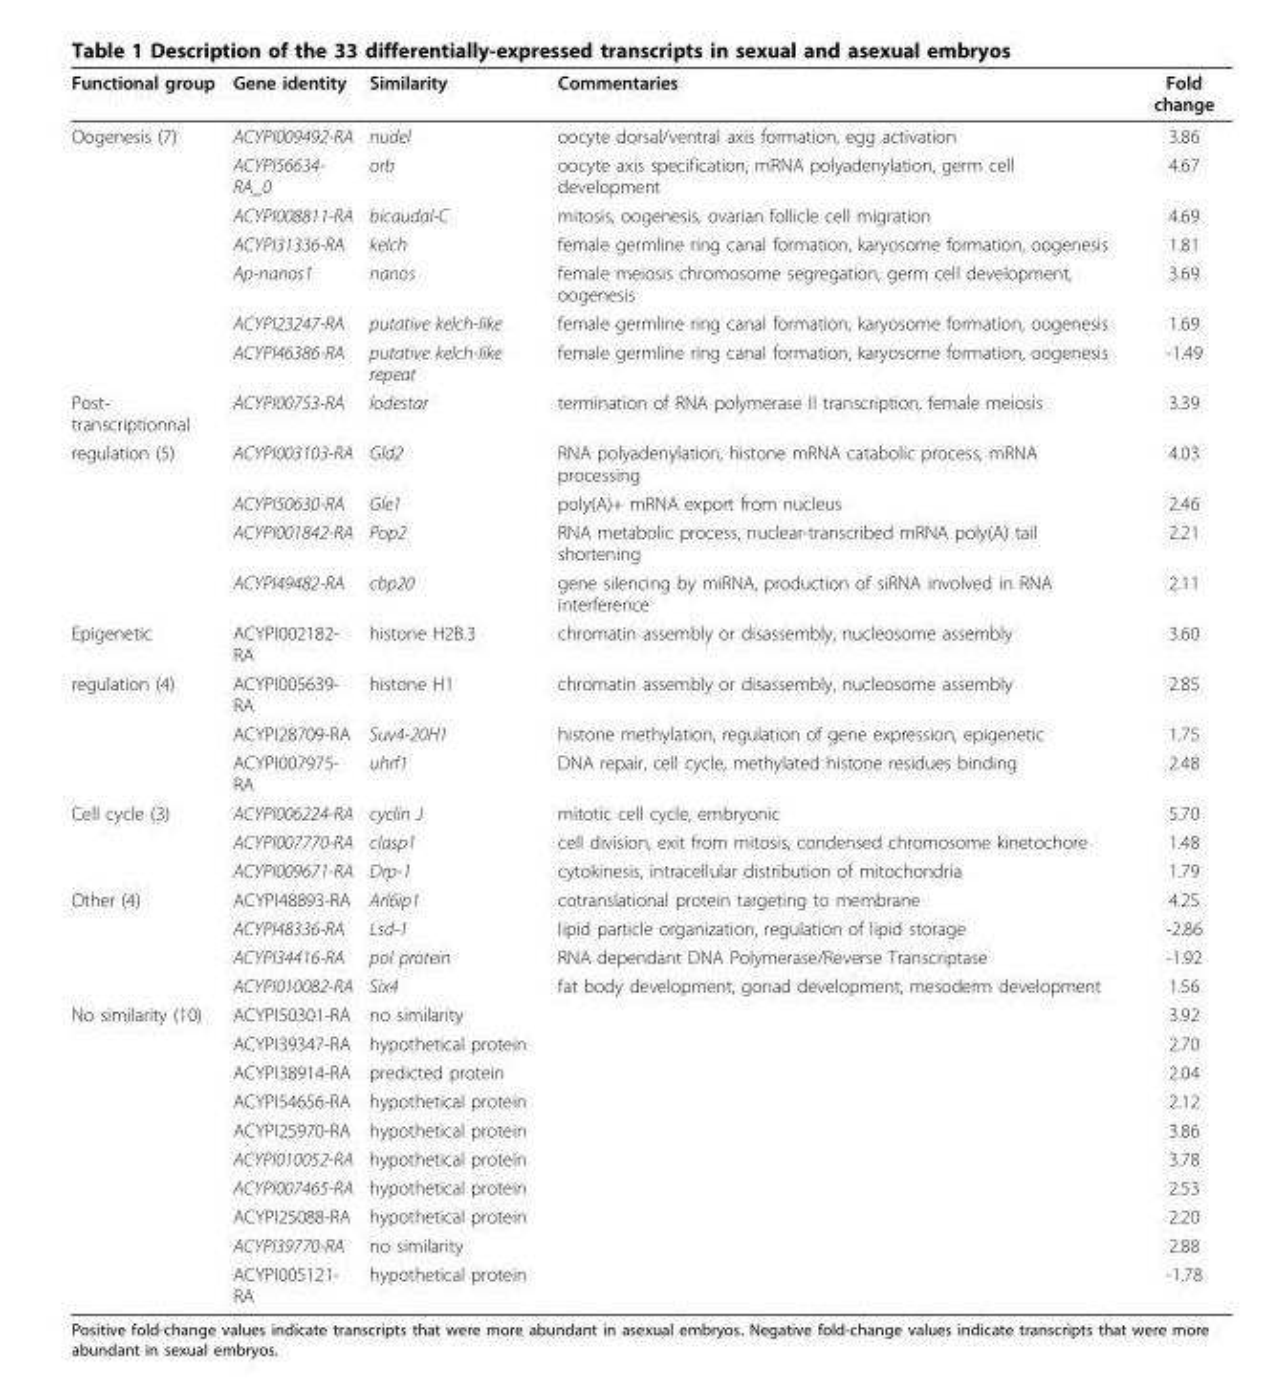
<table><thead><tr><td>Functional group</td><td>Gene identity</td><td>Similarity</td><td>Commentaries</td><td>Fold change</td></tr></thead><tbody><tr><td rowspan="7">Oogenesis (7)</td><td>ACYPI009492-RA</td><td>nudel</td><td>oocyte dorsal/ventral axis formation, egg activation</td><td>3.86</td></tr><tr><td>ACYPI56634- RA_0</td><td>orb</td><td>oocyte axis specification, mRNA polyadenylation, germ cell development</td><td>4.67</td></tr><tr><td>ACYPI008811-RA</td><td>bicaudal-C</td><td>mitosis, oogenesis, ovarian follicle cell migration</td><td>4.69</td></tr><tr><td>ACYPI31336-RA</td><td>kelch</td><td>female germline ring canal formation, karyosome formation, oogenesis</td><td>1.81</td></tr><tr><td>Ap-nanos1</td><td>nanos</td><td>female meiosis chromosome segregation, germ cell development, oogenesis</td><td>3.69</td></tr><tr><td>ACYPI23247-RA</td><td>putative kelch-like</td><td>female germline ring canal formation, karyosome formation, oogenesis</td><td>1.69</td></tr><tr><td>ACYPI46386-RA</td><td>putative kelch-like repeat</td><td>female germline ring canal formation, karyosome formation, oogenesis</td><td>-1.49</td></tr><tr><td>Post- transcriptionnal</td><td>ACYPI00753-RA</td><td>lodestar</td><td>termination of RNA polymerase II transcription, female meiosis</td><td>3.39</td></tr><tr><td rowspan="4">regulation (5)</td><td>ACYPI003103-RA</td><td>Gld2</td><td>RNA polyadenylation, histone mRNA catabolic process, mRNA processing</td><td>4.03</td></tr><tr><td>ACYPI50630-RA</td><td>Gle1</td><td>poly(A)+ mRNA export from nucleus</td><td>2.46</td></tr><tr><td>ACYPI001842-RA</td><td>Pop2</td><td>RNA metabolic process, nuclear-transcribed mRNA poly(A) tail shortening</td><td>2.21</td></tr><tr><td>ACYPI49482-RA</td><td>cbp20</td><td>gene silencing by miRNA, production of siRNA involved in RNA interference</td><td>2.11</td></tr><tr><td>Epigenetic</td><td>ACYPI002182- RA</td><td>histone H2B.3</td><td>chromatin assembly or disassembly, nucleosome assembly</td><td>3.60</td></tr><tr><td rowspan="3">regulation (4)</td><td>ACYPI005639- RA</td><td>histone H1</td><td>chromatin assembly or disassembly, nucleosome assembly</td><td>2.85</td></tr><tr><td>ACYPI28709-RA</td><td>Suv4-20H1</td><td>histone methylation, regulation of gene expression, epigenetic</td><td>1.75</td></tr><tr><td>ACYPI007975- RA</td><td>uhrf1</td><td>DNA repair, cell cycle, methylated histone residues binding</td><td>2.48</td></tr><tr><td rowspan="3">Cell cycle (3)</td><td>ACYPI006224-RA</td><td>cyclin J</td><td>mitotic cell cycle, embryonic</td><td>5.70</td></tr><tr><td>ACYPI007770-RA</td><td>clasp1</td><td>cell division, exit from mitosis, condensed chromosome kinetochore</td><td>1.48</td></tr><tr><td>ACYPI009671-RA</td><td>Drp-1</td><td>cytokinesis, intracellular distribution of mitochondria</td><td>1.79</td></tr><tr><td rowspan="4">Other (4)</td><td>ACYPI48893-RA</td><td>Arl6ip1</td><td>cotranslational protein targeting to membrane</td><td>4.25</td></tr><tr><td>ACYPI48336-RA</td><td>Lsd-1</td><td>lipid particle organization, regulation of lipid storage</td><td>-2.86</td></tr><tr><td>ACYPI34416-RA</td><td>pol protein</td><td>RNA dependant DNA Polymerase/Reverse Transcriptase</td><td>-1.92</td></tr><tr><td>ACYPI010082-RA</td><td>Six4</td><td>fat body development, gonad development, mesoderm development</td><td>1.56</td></tr><tr><td rowspan="10">No similarity (10)</td><td>ACYPI50301-RA</td><td>no similarity</td><td></td><td>3.92</td></tr><tr><td>ACYPI39347-RA</td><td>hypothetical protein</td><td></td><td>2.70</td></tr><tr><td>ACYPI38914-RA</td><td>predicted protein</td><td></td><td>2.04</td></tr><tr><td>ACYPI54656-RA</td><td>hypothetical protein</td><td></td><td>2.12</td></tr><tr><td>ACYPI25970-RA</td><td>hypothetical protein</td><td></td><td>3.86</td></tr><tr><td>ACYPI010052-RA</td><td>hypothetical protein</td><td></td><td>3.78</td></tr><tr><td>ACYPI007465-RA</td><td>hypothetical protein</td><td></td><td>2.53</td></tr><tr><td>ACYPI25088-RA</td><td>hypothetical protein</td><td></td><td>2.20</td></tr><tr><td>ACYPI39770-RA</td><td>no similarity</td><td></td><td>2.88</td></tr><tr><td>ACYPI005121- RA</td><td>hypothetical protein</td><td></td><td>-1.78</td></tr></tbody></table>